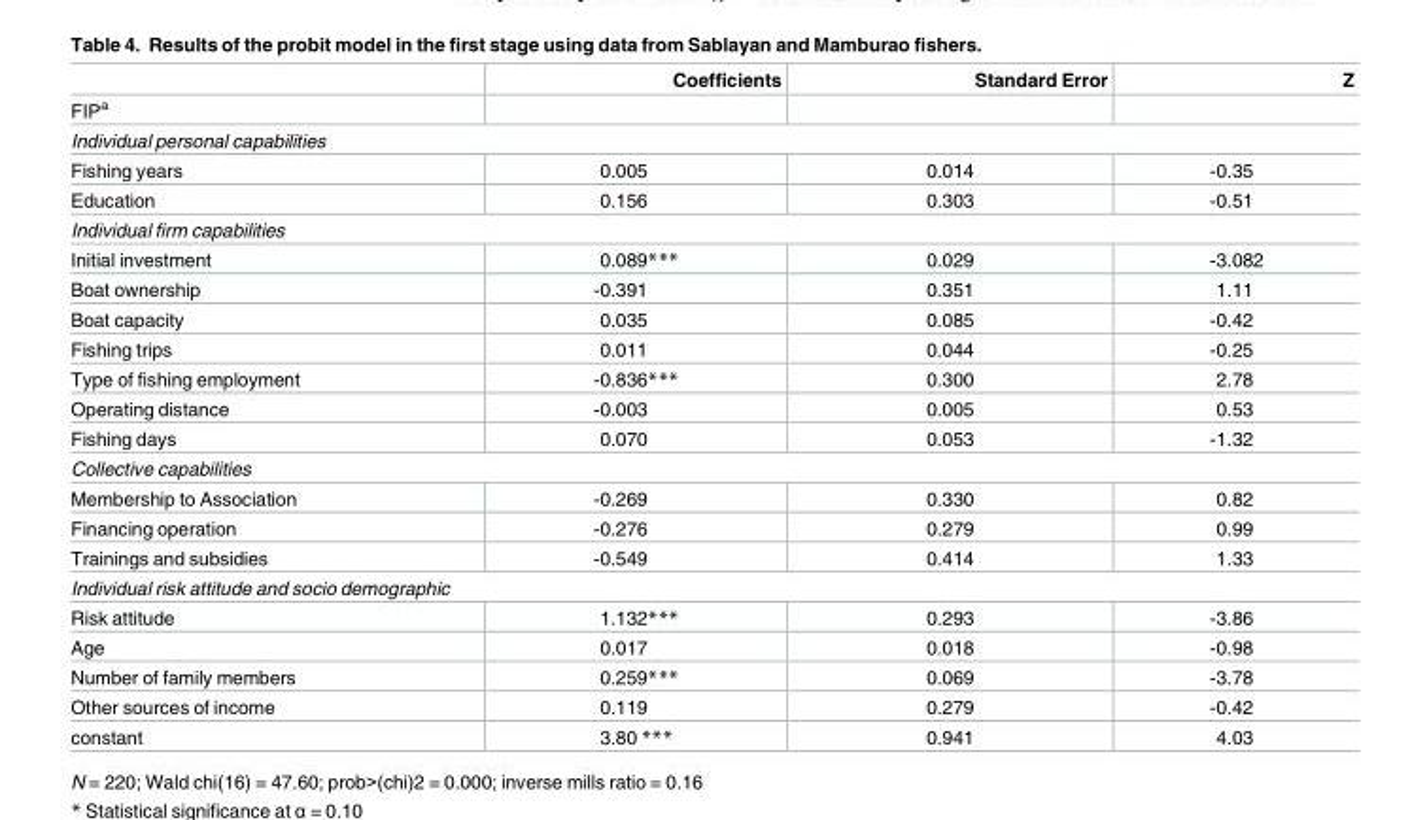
<table><thead><tr><td></td><td>Coefficients</td><td>Standard Error</td><td>Z</td></tr></thead><tbody><tr><td colspan="4">FIP<sup>a</sup></td></tr><tr><td colspan="4">Individual personal capabilities</td></tr><tr><td>Fishing years</td><td>0.005</td><td>0.014</td><td>-0.35</td></tr><tr><td>Education</td><td>0.156</td><td>0.303</td><td>-0.51</td></tr><tr><td colspan="4">Individual firm capabilities</td></tr><tr><td>Initial investment</td><td>0.089***</td><td>0.029</td><td>-3.082</td></tr><tr><td>Boat ownership</td><td>-0.391</td><td>0.351</td><td>1.11</td></tr><tr><td>Boat capacity</td><td>0.035</td><td>0.085</td><td>-0.42</td></tr><tr><td>Fishing trips</td><td>0.011</td><td>0.044</td><td>-0.25</td></tr><tr><td>Type of fishing employment</td><td>-0.836***</td><td>0.300</td><td>2.78</td></tr><tr><td>Operating distance</td><td>-0.003</td><td>0.005</td><td>0.53</td></tr><tr><td>Fishing days</td><td>0.070</td><td>0.053</td><td>-1.32</td></tr><tr><td colspan="4">Collective capabilities</td></tr><tr><td>Membership to Association</td><td>-0.269</td><td>0.330</td><td>0.82</td></tr><tr><td>Financing operation</td><td>-0.276</td><td>0.279</td><td>0.99</td></tr><tr><td>Trainings and subsidies</td><td>-0.549</td><td>0.414</td><td>1.33</td></tr><tr><td colspan="4">Individual risk attitude and socio demographic</td></tr><tr><td>Risk attitude</td><td>1.132***</td><td>0.293</td><td>-3.86</td></tr><tr><td>Age</td><td>0.017</td><td>0.018</td><td>-0.98</td></tr><tr><td>Number of family members</td><td>0.259***</td><td>0.069</td><td>-3.78</td></tr><tr><td>Other sources of income</td><td>0.119</td><td>0.279</td><td>-0.42</td></tr><tr><td>constant</td><td>3.80 ***</td><td>0.941</td><td>4.03</td></tr></tbody></table>